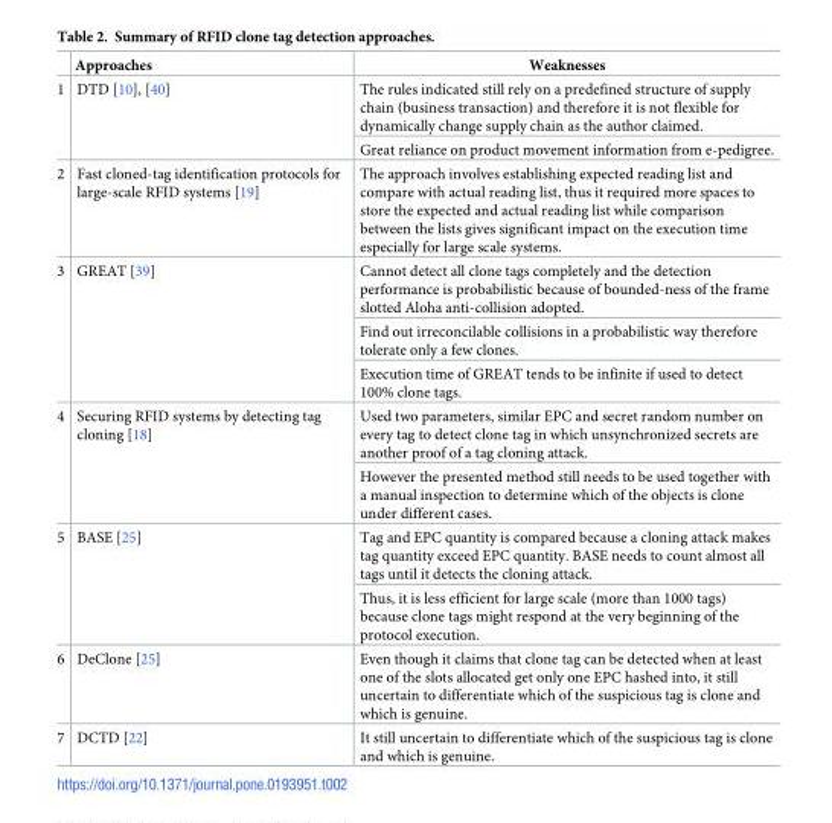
<table><thead><tr><td></td><td>Approaches</td><td>Weaknesses</td></tr></thead><tbody><tr><td rowspan="2">1</td><td rowspan="2">DTD [10], [40]</td><td>The rules indicated still rely on a predefined structure of supply chain (business transaction) and therefore it is not flexible for dynamically change supply chain as the author claimed.</td></tr><tr><td>Great reliance on product movement information from e-pedigree.</td></tr><tr><td>2</td><td>Fast cloned-tag identification protocols for large-scale RFID systems [19]</td><td>The approach involves establishing expected reading list and compare with actual reading list, thus it required more spaces to store the expected and actual reading list while comparison between the lists gives significant impact on the execution time especially for large scale systems.</td></tr><tr><td rowspan="3">3</td><td rowspan="3">GREAT [39]</td><td>Cannot detect all clone tags completely and the detection performance is probabilistic because of bounded-ness of the frame slotted Aloha anti-collision adopted.</td></tr><tr><td>Find out irreconcilable collisions in a probabilistic way therefore tolerate only a few clones.</td></tr><tr><td>Execution time of GREAT tends to be infinite if used to detect 100% clone tags.</td></tr><tr><td rowspan="2">4</td><td rowspan="2">Securing RFID systems by detecting tag cloning [18]</td><td>Used two parameters, similar EPC and secret random number on every tag to detect clone tag in which unsynchronized secrets are another proof of a tag cloning attack.</td></tr><tr><td>However the presented method still needs to be used together with a manual inspection to determine which of the objects is clone under different cases.</td></tr><tr><td rowspan="2">5</td><td rowspan="2">BASE [25]</td><td>Tag and EPC quantity is compared because a cloning attack makes tag quantity exceed EPC quantity. BASE needs to count almost all tags until it detects the cloning attack.</td></tr><tr><td>Thus, it is less efficient for large scale (more than 1000 tags) because clone tags might respond at the very beginning of the protocol execution.</td></tr><tr><td>6</td><td>DeClone [25]</td><td>Even though it claims that clone tag can be detected when at least one of the slots allocated get only one EPC hashed into, it still uncertain to differentiate which of the suspicious tag is clone and which is genuine.</td></tr><tr><td>7</td><td>DCTD [22]</td><td>It still uncertain to differentiate which of the suspicious tag is clone and which is genuine.</td></tr></tbody></table>